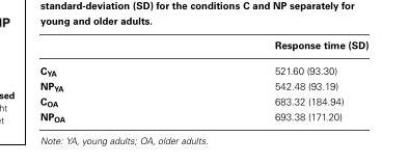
<table><thead><tr><td></td><td>Response time (SD)</td></tr></thead><tbody><tr><td>C<sub>YA</sub></td><td>521.60 (93.30)</td></tr><tr><td>NP<sub>YA</sub></td><td>542.48 (93.19)</td></tr><tr><td>C<sub>OA</sub></td><td>683.32 (184.94)</td></tr><tr><td>NP<sub>OA</sub></td><td>693.38 (171.20)</td></tr></tbody></table>